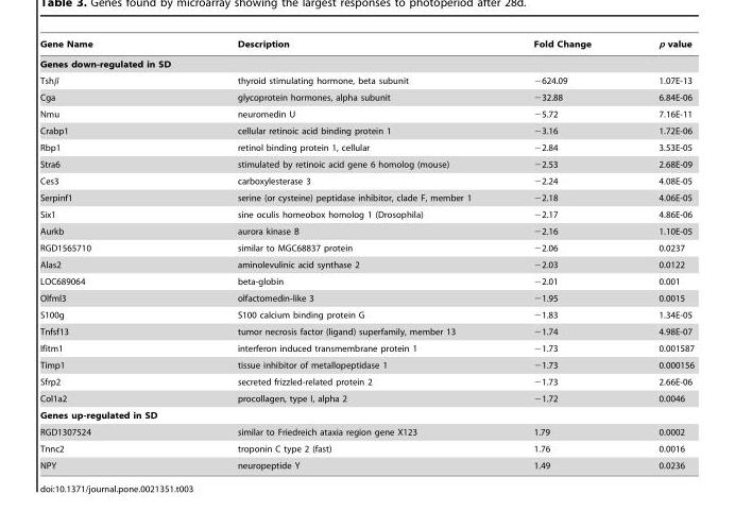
<table><thead><tr><td>Gene Name</td><td>Description</td><td>Fold Change</td><td>p value</td></tr></thead><tbody><tr><td colspan="4">Genes down-regulated in SD</td></tr><tr><td>Tshβ</td><td>thyroid stimulating hormone, beta subunit</td><td>−624.09</td><td>1.07E-13</td></tr><tr><td>Cga</td><td>glycoprotein hormones, alpha subunit</td><td>−32.88</td><td>6.84E-06</td></tr><tr><td>Nmu</td><td>neuromedin U</td><td>−5.72</td><td>7.16E-11</td></tr><tr><td>Crabp1</td><td>cellular retinoic acid binding protein 1</td><td>−3.16</td><td>1.72E-06</td></tr><tr><td>Rbp1</td><td>retinol binding protein 1, cellular</td><td>−2.84</td><td>3.53E-05</td></tr><tr><td>Stra6</td><td>stimulated by retinoic acid gene 6 homolog (mouse)</td><td>−2.53</td><td>2.68E-09</td></tr><tr><td>Ces3</td><td>carboxylesterase 3</td><td>−2.24</td><td>4.08E-05</td></tr><tr><td>Serpinf1</td><td>serine (or cysteine) peptidase inhibitor, clade F, member 1</td><td>−2.18</td><td>4.06E-05</td></tr><tr><td>Six1</td><td>sine oculis homeobox homolog 1 (Drosophila)</td><td>−2.17</td><td>4.86E-06</td></tr><tr><td>Aurkb</td><td>aurora kinase B</td><td>−2.16</td><td>1.10E-05</td></tr><tr><td>RGD1565710</td><td>similar to MGC68837 protein</td><td>−2.06</td><td>0.0237</td></tr><tr><td>Alas2</td><td>aminolevulinic acid synthase 2</td><td>−2.03</td><td>0.0122</td></tr><tr><td>LOC689064</td><td>beta-globin</td><td>−2.01</td><td>0.001</td></tr><tr><td>Olfml3</td><td>olfactomedin-like 3</td><td>−1.95</td><td>0.0015</td></tr><tr><td>S100g</td><td>S100 calcium binding protein G</td><td>−1.83</td><td>1.34E-05</td></tr><tr><td>Tnfsf13</td><td>tumor necrosis factor (ligand) superfamily, member 13</td><td>−1.74</td><td>4.98E-07</td></tr><tr><td>Ifitm1</td><td>interferon induced transmembrane protein 1</td><td>−1.73</td><td>0.001587</td></tr><tr><td>Timp1</td><td>tissue inhibitor of metallopeptidase 1</td><td>−1.73</td><td>0.000156</td></tr><tr><td>Sfrp2</td><td>secreted frizzled-related protein 2</td><td>−1.73</td><td>2.66E-06</td></tr><tr><td>Col1a2</td><td>procollagen, type I, alpha 2</td><td>−1.72</td><td>0.0046</td></tr><tr><td colspan="4">Genes up-regulated in SD</td></tr><tr><td>RGD1307524</td><td>similar to Friedreich ataxia region gene X123</td><td>1.79</td><td>0.0002</td></tr><tr><td>Tnnc2</td><td>troponin C type 2 (fast)</td><td>1.76</td><td>0.0016</td></tr><tr><td>NPY</td><td>neuropeptide Y</td><td>1.49</td><td>0.0236</td></tr></tbody></table>